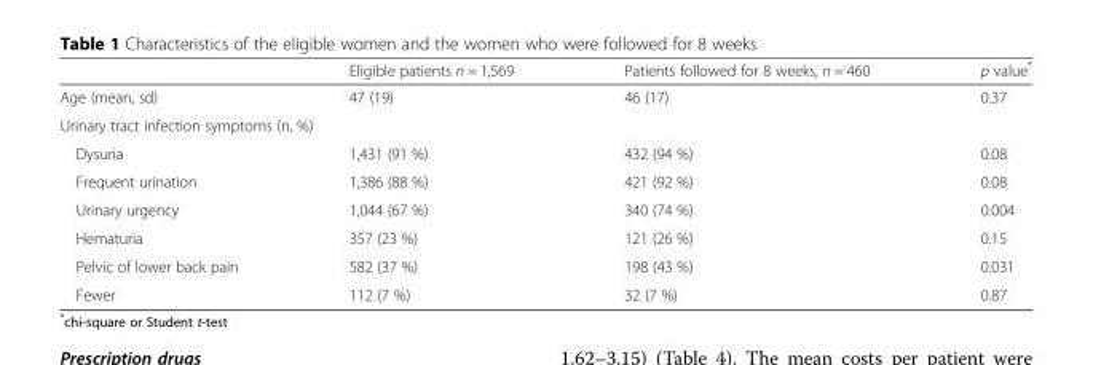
<table><thead><tr><td></td><td>Eligible patients n = 1,569</td><td>Patients followed for 8 weeks, n = 460</td><td>p value*</td></tr></thead><tbody><tr><td>Age (mean, sd)</td><td>47 (19)</td><td>46 (17)</td><td>0.37</td></tr><tr><td colspan="4">Urinary tract infection symptoms (n, %)</td></tr><tr><td>Dysuria</td><td>1,431 (91 %)</td><td>432 (94 %)</td><td>0.08</td></tr><tr><td>Frequent urination</td><td>1,386 (88 %)</td><td>421 (92 %)</td><td>0.08</td></tr><tr><td>Urinary urgency</td><td>1,044 (67 %)</td><td>340 (74 %)</td><td>0.004</td></tr><tr><td>Hematuria</td><td>357 (23 %)</td><td>121 (26 %)</td><td>0.15</td></tr><tr><td>Pelvic of lower back pain</td><td>582 (37 %)</td><td>198 (43 %)</td><td>0.031</td></tr><tr><td>Fewer</td><td>112 (7 %)</td><td>32 (7 %)</td><td>0.87</td></tr></tbody></table>